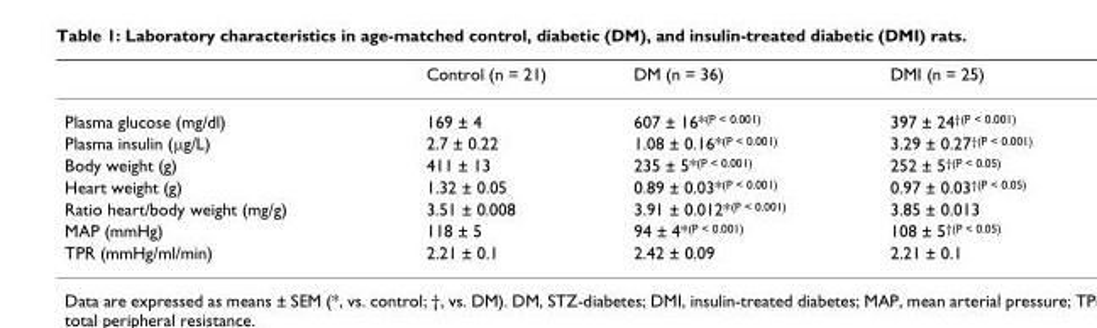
<table><thead><tr><td></td><td>Control (n = 21)</td><td>DM (n = 36)</td><td>DMI (n = 25)</td></tr></thead><tbody><tr><td>Plasma glucose (mg/dl)</td><td>169 ± 4</td><td>607 ± 16*<sup>(P &lt; 0.001)</sup></td><td>397 ± 24<sup>†(P &lt; 0.001)</sup></td></tr><tr><td>Plasma insulin (μg/L)</td><td>2.7 ± 0.22</td><td>1.08 ± 0.16*<sup>(P &lt; 0.001)</sup></td><td>3.29 ± 0.27<sup>†(P &lt; 0.001)</sup></td></tr><tr><td>Body weight (g)</td><td>411 ± 13</td><td>235 ± 5*<sup>(P &lt; 0.001)</sup></td><td>252 ± 5<sup>†(P &lt; 0.05)</sup></td></tr><tr><td>Heart weight (g)</td><td>1.32 ± 0.05</td><td>0.89 ± 0.03*<sup>(P &lt; 0.001)</sup></td><td>0.97 ± 0.03<sup>†(P &lt; 0.05)</sup></td></tr><tr><td>Ratio heart/body weight (mg/g)</td><td>3.51 ± 0.008</td><td>3.91 ± 0.012*<sup>(P &lt; 0.001)</sup></td><td>3.85 ± 0.013</td></tr><tr><td>MAP (mmHg)</td><td>118 ± 5</td><td>94 ± 4*<sup>(P &lt; 0.001)</sup></td><td>108 ± 5<sup>†(P &lt; 0.05)</sup></td></tr><tr><td>TPR (mmHg/ml/min)</td><td>2.21 ± 0.1</td><td>2.42 ± 0.09</td><td>2.21 ± 0.1</td></tr></tbody></table>